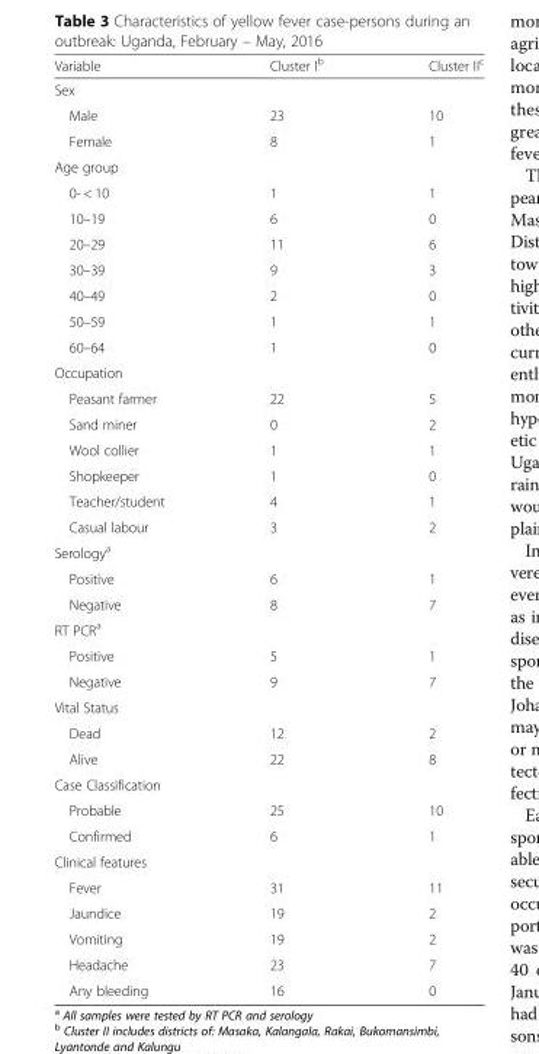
<table><thead><tr><td>Variable</td><td>Cluster I<sup>b</sup></td><td>Cluster II<sup>c</sup></td></tr></thead><tbody><tr><td colspan="3">Sex</td></tr><tr><td>Male</td><td>23</td><td>10</td></tr><tr><td>Female</td><td>8</td><td>1</td></tr><tr><td colspan="3">Age group</td></tr><tr><td>0- &lt; 10</td><td>1</td><td>1</td></tr><tr><td>10–19</td><td>6</td><td>0</td></tr><tr><td>20–29</td><td>11</td><td>6</td></tr><tr><td>30–39</td><td>9</td><td>3</td></tr><tr><td>40–49</td><td>2</td><td>0</td></tr><tr><td>50–59</td><td>1</td><td>1</td></tr><tr><td>60–64</td><td>1</td><td>0</td></tr><tr><td colspan="3">Occupation</td></tr><tr><td>Peasant farmer</td><td>22</td><td>5</td></tr><tr><td>Sand miner</td><td>0</td><td>2</td></tr><tr><td>Wool collier</td><td>1</td><td>1</td></tr><tr><td>Shopkeeper</td><td>1</td><td>0</td></tr><tr><td>Teacher/student</td><td>4</td><td>1</td></tr><tr><td>Casual labour</td><td>3</td><td>2</td></tr><tr><td colspan="3">Serology<sup>a</sup></td></tr><tr><td>Positive</td><td>6</td><td>1</td></tr><tr><td>Negative</td><td>8</td><td>7</td></tr><tr><td colspan="3">RT PCR<sup>a</sup></td></tr><tr><td>Positive</td><td>5</td><td>1</td></tr><tr><td>Negative</td><td>9</td><td>7</td></tr><tr><td colspan="3">Vital Status</td></tr><tr><td>Dead</td><td>12</td><td>2</td></tr><tr><td>Alive</td><td>22</td><td>8</td></tr><tr><td colspan="3">Case Classification</td></tr><tr><td>Probable</td><td>25</td><td>10</td></tr><tr><td>Confirmed</td><td>6</td><td>1</td></tr><tr><td colspan="3">Clinical features</td></tr><tr><td>Fever</td><td>31</td><td>11</td></tr><tr><td>Jaundice</td><td>19</td><td>2</td></tr><tr><td>Vomiting</td><td>19</td><td>2</td></tr><tr><td>Headache</td><td>23</td><td>7</td></tr><tr><td>Any bleeding</td><td>16</td><td>0</td></tr></tbody></table>